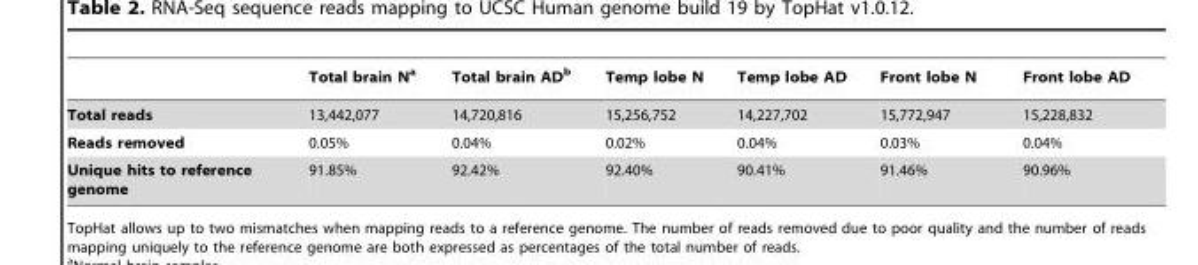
<table><thead><tr><td></td><td>Total brain N<sup>a</sup></td><td>Total brain AD<sup>b</sup></td><td>Temp lobe N</td><td>Temp lobe AD</td><td>Front lobe N</td><td>Front lobe AD</td></tr></thead><tbody><tr><td>Total reads</td><td>13,442,077</td><td>14,720,816</td><td>15,256,752</td><td>14,227,702</td><td>15,772,947</td><td>15,228,832</td></tr><tr><td>Reads removed</td><td>0.05%</td><td>0.04%</td><td>0.02%</td><td>0.04%</td><td>0.03%</td><td>0.04%</td></tr><tr><td>Unique hits to reference genome</td><td>91.85%</td><td>92.42%</td><td>92.40%</td><td>90.41%</td><td>91.46%</td><td>90.96%</td></tr></tbody></table>